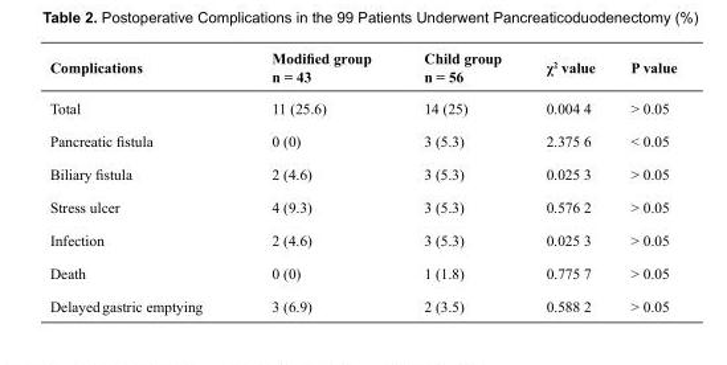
<table><thead><tr><td>Complications</td><td>Modified group n = 43</td><td>Child group n = 56</td><td>χ<sup>2</sup> value</td><td>P value</td></tr></thead><tbody><tr><td>Total</td><td>11 (25.6)</td><td>14 (25)</td><td>0.004 4</td><td>&gt; 0.05</td></tr><tr><td>Pancreatic fistula</td><td>0 (0)</td><td>3 (5.3)</td><td>2.375 6</td><td>&lt; 0.05</td></tr><tr><td>Biliary fistula</td><td>2 (4.6)</td><td>3 (5.3)</td><td>0.025 3</td><td>&gt; 0.05</td></tr><tr><td>Stress ulcer</td><td>4 (9.3)</td><td>3 (5.3)</td><td>0.576 2</td><td>&gt; 0.05</td></tr><tr><td>Infection</td><td>2 (4.6)</td><td>3 (5.3)</td><td>0.025 3</td><td>&gt; 0.05</td></tr><tr><td>Death</td><td>0 (0)</td><td>1 (1.8)</td><td>0.775 7</td><td>&gt; 0.05</td></tr><tr><td>Delayed gastric emptying</td><td>3 (6.9)</td><td>2 (3.5)</td><td>0.588 2</td><td>&gt; 0.05</td></tr></tbody></table>